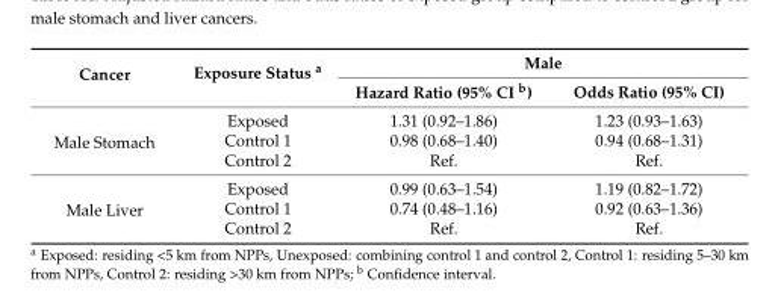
<table><thead><tr><td rowspan="2">Cancer</td><td rowspan="2">Exposure Status <sup>a</sup></td><td colspan="2">Male</td></tr><tr><td>Hazard Ratio (95% CI <sup>b</sup>)</td><td>Odds Ratio (95% CI)</td></tr></thead><tbody><tr><td rowspan="3">Male Stomach</td><td>Exposed</td><td>1.31 (0.92–1.86)</td><td>1.23 (0.93–1.63)</td></tr><tr><td>Control 1</td><td>0.98 (0.68–1.40)</td><td>0.94 (0.68–1.31)</td></tr><tr><td>Control 2</td><td>Ref.</td><td>Ref.</td></tr><tr><td rowspan="3">Male Liver</td><td>Exposed</td><td>0.99 (0.63–1.54)</td><td>1.19 (0.82–1.72)</td></tr><tr><td>Control 1</td><td>0.74 (0.48–1.16)</td><td>0.92 (0.63–1.36)</td></tr><tr><td>Control 2</td><td>Ref.</td><td>Ref.</td></tr></tbody></table>